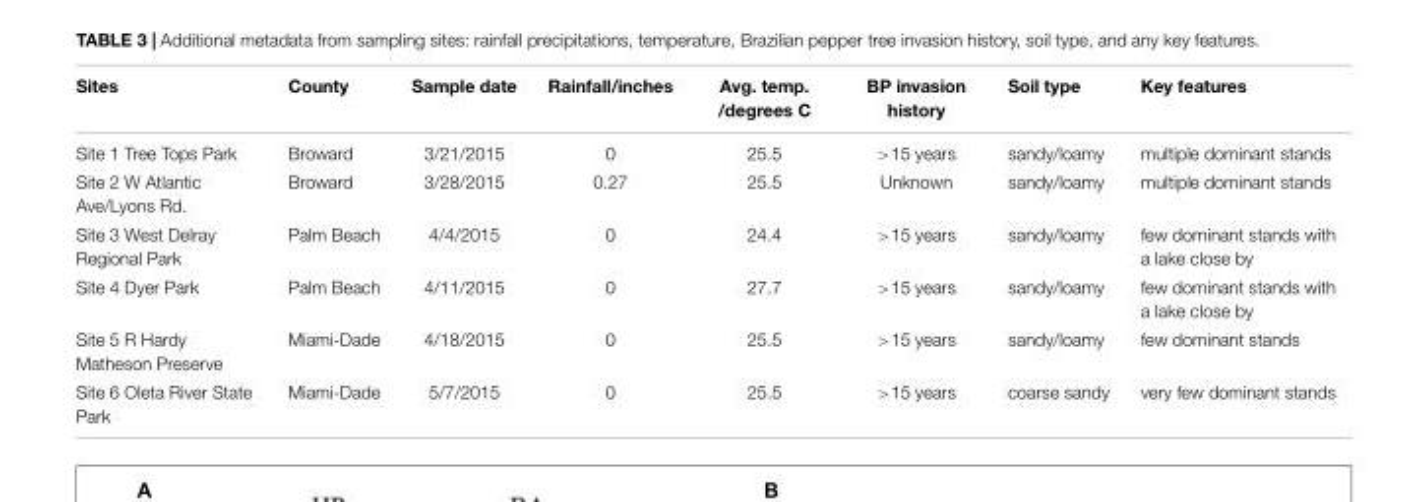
<table><thead><tr><td>Sites</td><td>County</td><td>Sample date</td><td>Rainfall/inches</td><td>Avg. temp. /degrees C</td><td>BP invasion history</td><td>Soil type</td><td>Key features</td></tr></thead><tbody><tr><td>Site 1 Tree Tops Park</td><td>Broward</td><td>3/21/2015</td><td>0</td><td>25.5</td><td>&gt;15 years</td><td>sandy/loamy</td><td>multiple dominant stands</td></tr><tr><td>Site 2 W Atlantic Ave/Lyons Rd.</td><td>Broward</td><td>3/28/2015</td><td>0.27</td><td>25.5</td><td>Unknown</td><td>sandy/loamy</td><td>multiple dominant stands</td></tr><tr><td>Site 3 West Delray Regional Park</td><td>Palm Beach</td><td>4/4/2015</td><td>0</td><td>24.4</td><td>&gt;15 years</td><td>sandy/loamy</td><td>few dominant stands with a lake close by</td></tr><tr><td>Site 4 Dyer Park</td><td>Palm Beach</td><td>4/11/2015</td><td>0</td><td>27.7</td><td>&gt;15 years</td><td>sandy/loamy</td><td>few dominant stands with a lake close by</td></tr><tr><td>Site 5 R Hardy Matheson Preserve</td><td>Miami-Dade</td><td>4/18/2015</td><td>0</td><td>25.5</td><td>&gt;15 years</td><td>sandy/loamy</td><td>few dominant stands</td></tr><tr><td>Site 6 Oleta River State Park</td><td>Miami-Dade</td><td>5/7/2015</td><td>0</td><td>25.5</td><td>&gt;15 years</td><td>coarse sandy</td><td>very few dominant stands</td></tr></tbody></table>